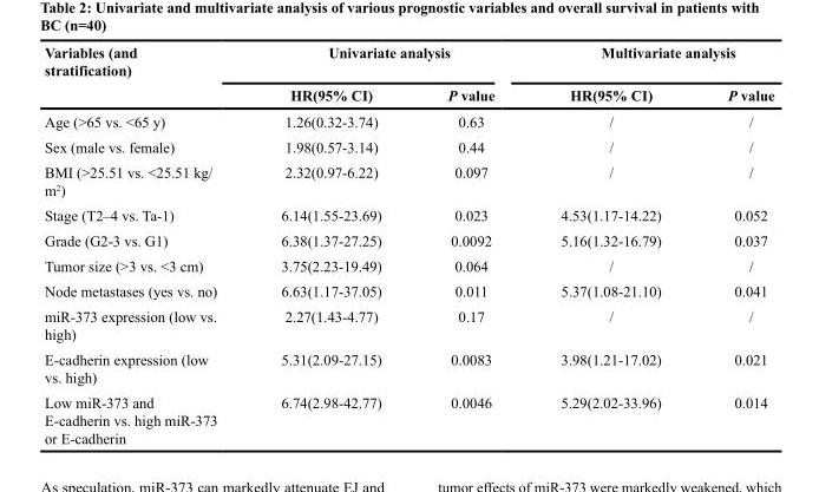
<table><thead><tr><td rowspan="2">Variables (and stratification)</td><td colspan="2">Univariate analysis</td><td colspan="2">Multivariate analysis</td></tr><tr><td>HR(95% CI)</td><td>P value</td><td>HR(95% CI)</td><td>P value</td></tr></thead><tbody><tr><td>Age (&gt;65 vs. &lt;65 y)</td><td>1.26(0.32-3.74)</td><td>0.63</td><td>/</td><td>/</td></tr><tr><td>Sex (male vs. female)</td><td>1.98(0.57-3.14)</td><td>0.44</td><td>/</td><td>/</td></tr><tr><td>BMI (&gt;25.51 vs. &lt;25.51 kg/ m<sup>2</sup>)</td><td>2.32(0.97-6.22)</td><td>0.097</td><td>/</td><td>/</td></tr><tr><td>Stage (T2–4 vs. Ta-1)</td><td>6.14(1.55-23.69)</td><td>0.023</td><td>4.53(1.17-14.22)</td><td>0.052</td></tr><tr><td>Grade (G2-3 vs. G1)</td><td>6.38(1.37-27.25)</td><td>0.0092</td><td>5.16(1.32-16.79)</td><td>0.037</td></tr><tr><td>Tumor size (&gt;3 vs. &lt;3 cm)</td><td>3.75(2.23-19.49)</td><td>0.064</td><td>/</td><td>/</td></tr><tr><td>Node metastases (yes vs. no)</td><td>6.63(1.17-37.05)</td><td>0.011</td><td>5.37(1.08-21.10)</td><td>0.041</td></tr><tr><td>miR-373 expression (low vs. high)</td><td>2.27(1.43-4.77)</td><td>0.17</td><td>/</td><td>/</td></tr><tr><td>E-cadherin expression (low vs. high)</td><td>5.31(2.09-27.15)</td><td>0.0083</td><td>3.98(1.21-17.02)</td><td>0.021</td></tr><tr><td>Low miR-373 and E-cadherin vs. high miR-373 or E-cadherin</td><td>6.74(2.98-42.77)</td><td>0.0046</td><td>5.29(2.02-33.96)</td><td>0.014</td></tr></tbody></table>